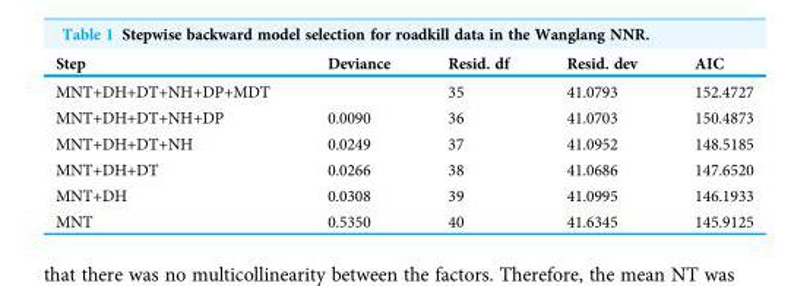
<table><thead><tr><td>Step</td><td>Deviance</td><td>Resid. df</td><td>Resid. dev</td><td>AIC</td></tr></thead><tbody><tr><td>MNT+DH+DT+NH+DP+MDT</td><td></td><td>35</td><td>41.0793</td><td>152.4727</td></tr><tr><td>MNT+DH+DT+NH+DP</td><td>0.0090</td><td>36</td><td>41.0703</td><td>150.4873</td></tr><tr><td>MNT+DH+DT+NH</td><td>0.0249</td><td>37</td><td>41.0952</td><td>148.5185</td></tr><tr><td>MNT+DH+DT</td><td>0.0266</td><td>38</td><td>41.0686</td><td>147.6520</td></tr><tr><td>MNT+DH</td><td>0.0308</td><td>39</td><td>41.0995</td><td>146.1933</td></tr><tr><td>MNT</td><td>0.5350</td><td>40</td><td>41.6345</td><td>145.9125</td></tr></tbody></table>